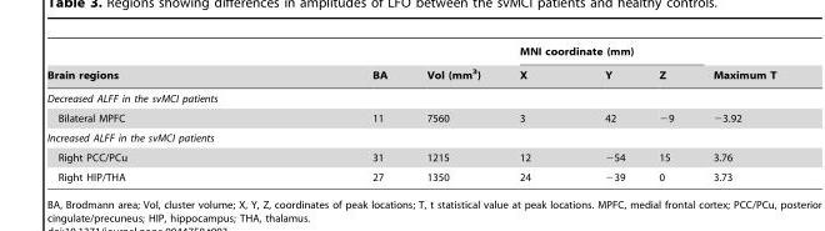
<table><thead><tr><td rowspan="2">Brain regions</td><td rowspan="2">BA</td><td rowspan="2">Vol (mm<sup>3</sup>)</td><td colspan="3">MNI coordinate (mm)</td><td rowspan="2">Maximum T</td></tr><tr><td>X</td><td>Y</td><td>Z</td></tr></thead><tbody><tr><td colspan="7">Decreased ALFF in the svMCI patients</td></tr><tr><td>Bilateral MPFC</td><td>11</td><td>7560</td><td>3</td><td>42</td><td>−9</td><td>−3.92</td></tr><tr><td colspan="7">Increased ALFF in the svMCI patients</td></tr><tr><td>Right PCC/PCu</td><td>31</td><td>1215</td><td>12</td><td>−54</td><td>15</td><td>3.76</td></tr><tr><td>Right HIP/THA</td><td>27</td><td>1350</td><td>24</td><td>−39</td><td>0</td><td>3.73</td></tr></tbody></table>